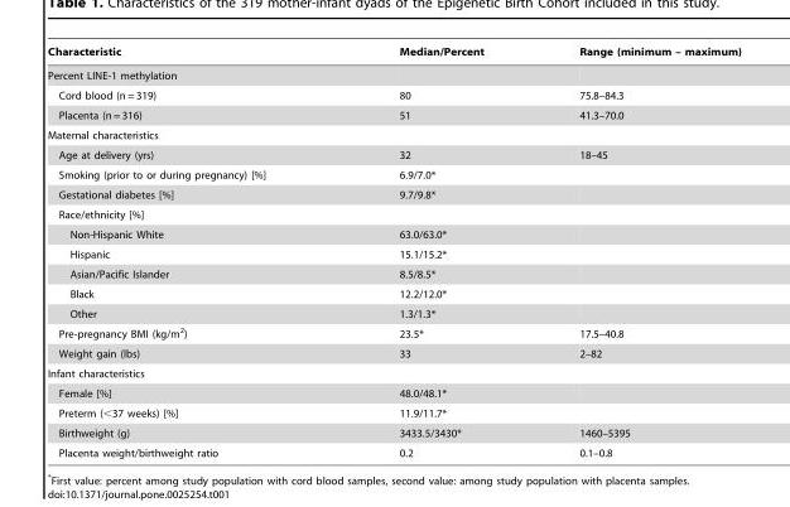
<table><thead><tr><td>Characteristic</td><td>Median/Percent</td><td>Range (minimum – maximum)</td></tr></thead><tbody><tr><td colspan="3">Percent LINE-1 methylation</td></tr><tr><td>Cord blood (n = 319)</td><td>80</td><td>75.8–84.3</td></tr><tr><td>Placenta (n = 316)</td><td>51</td><td>41.3–70.0</td></tr><tr><td colspan="3">Maternal characteristics</td></tr><tr><td>Age at delivery (yrs)</td><td>32</td><td>18–45</td></tr><tr><td>Smoking (prior to or during pregnancy) [%]</td><td>6.9/7.0*</td><td></td></tr><tr><td>Gestational diabetes [%]</td><td>9.7/9.8*</td><td></td></tr><tr><td colspan="3">Race/ethnicity [%]</td></tr><tr><td>Non-Hispanic White</td><td>63.0/63.0*</td><td></td></tr><tr><td>Hispanic</td><td>15.1/15.2*</td><td></td></tr><tr><td>Asian/Pacific Islander</td><td>8.5/8.5*</td><td></td></tr><tr><td>Black</td><td>12.2/12.0*</td><td></td></tr><tr><td>Other</td><td>1.3/1.3*</td><td></td></tr><tr><td>Pre-pregnancy BMI (kg/m<sup>2</sup>)</td><td>23.5*</td><td>17.5–40.8</td></tr><tr><td>Weight gain (lbs)</td><td>33</td><td>2–82</td></tr><tr><td colspan="3">Infant characteristics</td></tr><tr><td>Female [%]</td><td>48.0/48.1*</td><td></td></tr><tr><td>Preterm (&lt;37 weeks) [%]</td><td>11.9/11.7*</td><td></td></tr><tr><td>Birthweight (g)</td><td>3433.5/3430*</td><td>1460–5395</td></tr><tr><td>Placenta weight/birthweight ratio</td><td>0.2</td><td>0.1–0.8</td></tr></tbody></table>